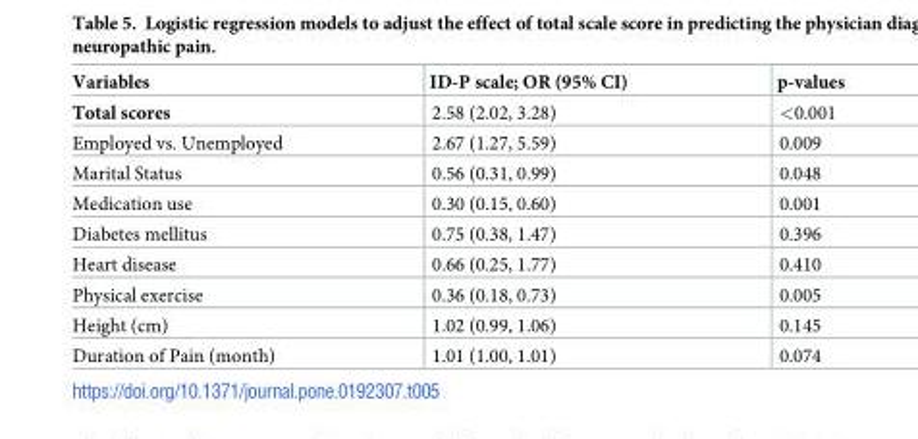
<table><thead><tr><td>Variables</td><td>ID-P scale; OR (95% CI)</td><td>p-values</td></tr></thead><tbody><tr><td>Total scores</td><td>2.58 (2.02, 3.28)</td><td>&lt;0.001</td></tr><tr><td>Employed vs. Unemployed</td><td>2.67 (1.27, 5.59)</td><td>0.009</td></tr><tr><td>Marital Status</td><td>0.56 (0.31, 0.99)</td><td>0.048</td></tr><tr><td>Medication use</td><td>0.30 (0.15, 0.60)</td><td>0.001</td></tr><tr><td>Diabetes mellitus</td><td>0.75 (0.38, 1.47)</td><td>0.396</td></tr><tr><td>Heart disease</td><td>0.66 (0.25, 1.77)</td><td>0.410</td></tr><tr><td>Physical exercise</td><td>0.36 (0.18, 0.73)</td><td>0.005</td></tr><tr><td>Height (cm)</td><td>1.02 (0.99, 1.06)</td><td>0.145</td></tr><tr><td>Duration of Pain (month)</td><td>1.01 (1.00, 1.01)</td><td>0.074</td></tr></tbody></table>